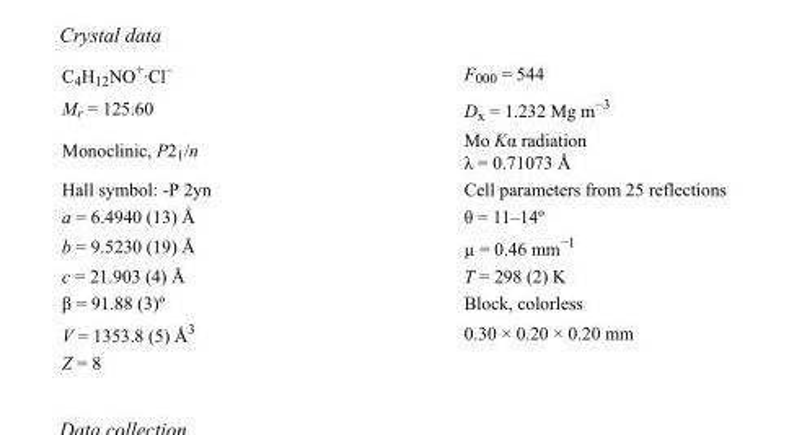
<table><tbody><tr><td>C<sub>4</sub>H<sub>12</sub>NO<sup>+</sup>·Cl<sup>–</sup></td><td>F<sub>000</sub> = 544</td></tr><tr><td>M<sub>r</sub> = 125.60</td><td>D<sub>x</sub> = 1.232 Mg m<sup>−3</sup></td></tr><tr><td>Monoclinic, P2<sub>1</sub>/n</td><td>Mo Kα radiation λ = 0.71073 Å</td></tr><tr><td>Hall symbol: -P 2yn</td><td>Cell parameters from 25 reflections</td></tr><tr><td>a = 6.4940 (13) Å</td><td>θ = 11–14º</td></tr><tr><td>b = 9.5230 (19) Å</td><td>µ = 0.46 mm<sup>−1</sup></td></tr><tr><td>c = 21.903 (4) Å</td><td>T = 298 (2) K</td></tr><tr><td>β = 91.88 (3)º</td><td>Block, colorless</td></tr><tr><td>V = 1353.8 (5) Å<sup>3</sup></td><td>0.30 × 0.20 × 0.20 mm</td></tr><tr><td>Z = 8</td><td></td></tr></tbody></table>